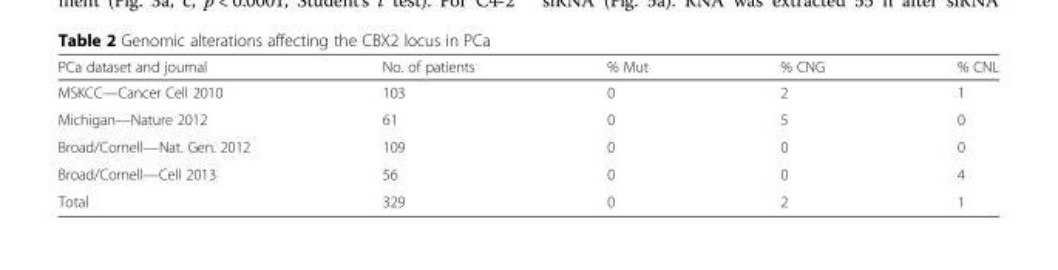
<table><thead><tr><td>PCa dataset and journal</td><td>No. of patients</td><td>% Mut</td><td>% CNG</td><td>% CNL</td></tr></thead><tbody><tr><td>MSKCC—Cancer Cell 2010</td><td>103</td><td>0</td><td>2</td><td>1</td></tr><tr><td>Michigan—Nature 2012</td><td>61</td><td>0</td><td>5</td><td>0</td></tr><tr><td>Broad/Cornell—Nat. Gen. 2012</td><td>109</td><td>0</td><td>0</td><td>0</td></tr><tr><td>Broad/Cornell—Cell 2013</td><td>56</td><td>0</td><td>0</td><td>4</td></tr><tr><td>Total</td><td>329</td><td>0</td><td>2</td><td>1</td></tr></tbody></table>